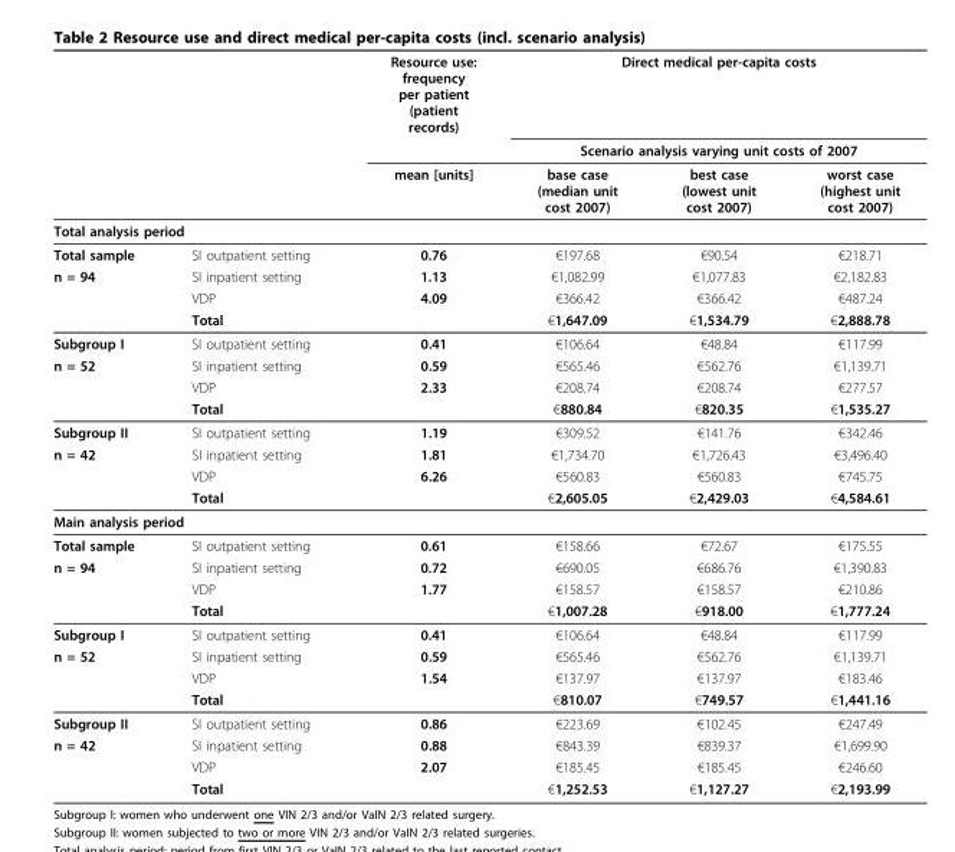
<table><thead><tr><td rowspan="3"></td><td rowspan="3"></td><td rowspan="3">Resource use: frequency per patient (patient records) mean [units]</td><td rowspan="2" colspan="3">Direct medical per-capita costs Scenario analysis varying unit costs of 2007</td></tr><tr></tr><tr><td>base case (median unit cost 2007)</td><td>best case (lowest unit cost 2007)</td><td>worst case (highest unit cost 2007)</td></tr></thead><tbody><tr><td colspan="6">Total analysis period</td></tr><tr><td>Total sample</td><td>SI outpatient setting</td><td>0.76</td><td>€197.68</td><td>€90.54</td><td>€218.71</td></tr><tr><td rowspan="3">n = 94</td><td>SI inpatient setting</td><td>1.13</td><td>€1,082.99</td><td>€1,077.83</td><td>€2,182.83</td></tr><tr><td>VDP</td><td>4.09</td><td>€366.42</td><td>€366.42</td><td>€487.24</td></tr><tr><td>Total</td><td></td><td>€1,647.09</td><td>€1,534.79</td><td>€2,888.78</td></tr><tr><td>Subgroup I</td><td>SI outpatient setting</td><td>0.41</td><td>€106.64</td><td>€48.84</td><td>€117.99</td></tr><tr><td rowspan="3">n = 52</td><td>SI inpatient setting</td><td>0.59</td><td>€565.46</td><td>€562.76</td><td>€1,139.71</td></tr><tr><td>VDP</td><td>2.33</td><td>€208.74</td><td>€208.74</td><td>€277.57</td></tr><tr><td>Total</td><td></td><td>€880.84</td><td>€820.35</td><td>€1,535.27</td></tr><tr><td>Subgroup II</td><td>SI outpatient setting</td><td>1.19</td><td>€309.52</td><td>€141.76</td><td>€342.46</td></tr><tr><td rowspan="3">n = 42</td><td>SI inpatient setting</td><td>1.81</td><td>€1,734.70</td><td>€1,726.43</td><td>€3,496.40</td></tr><tr><td>VDP</td><td>6.26</td><td>€560.83</td><td>€560.83</td><td>€745.75</td></tr><tr><td>Total</td><td></td><td>€2,605.05</td><td>€2,429.03</td><td>€4,584.61</td></tr><tr><td colspan="6">Main analysis period</td></tr><tr><td>Total sample</td><td>SI outpatient setting</td><td>0.61</td><td>€158.66</td><td>€72.67</td><td>€175.55</td></tr><tr><td rowspan="3">n = 94</td><td>SI inpatient setting</td><td>0.72</td><td>€690.05</td><td>€686.76</td><td>€1,390.83</td></tr><tr><td>VDP</td><td>1.77</td><td>€158.57</td><td>€158.57</td><td>€210.86</td></tr><tr><td>Total</td><td></td><td>€1,007.28</td><td>€918.00</td><td>€1,777.24</td></tr><tr><td>Subgroup I</td><td>SI outpatient setting</td><td>0.41</td><td>€106.64</td><td>€48.84</td><td>€117.99</td></tr><tr><td rowspan="3">n = 52</td><td>SI inpatient setting</td><td>0.59</td><td>€565.46</td><td>€562.76</td><td>€1,139.71</td></tr><tr><td>VDP</td><td>1.54</td><td>€137.97</td><td>€137.97</td><td>€183.46</td></tr><tr><td>Total</td><td></td><td>€810.07</td><td>€749.57</td><td>€1,441.16</td></tr><tr><td>Subgroup II</td><td>SI outpatient setting</td><td>0.86</td><td>€223.69</td><td>€102.45</td><td>€247.49</td></tr><tr><td rowspan="3">n = 42</td><td>SI inpatient setting</td><td>0.88</td><td>€843.39</td><td>€839.37</td><td>€1,699.90</td></tr><tr><td>VDP</td><td>2.07</td><td>€185.45</td><td>€185.45</td><td>€246.60</td></tr><tr><td>Total</td><td></td><td>€1,252.53</td><td>€1,127.27</td><td>€2,193.99</td></tr></tbody></table>